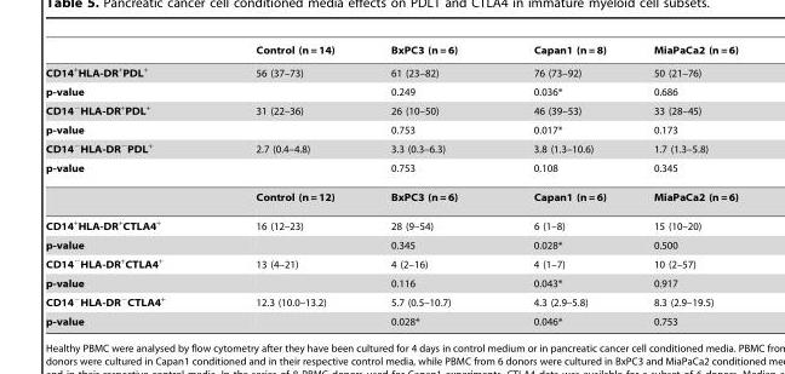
<table><thead><tr><td></td><td>Control (n = 14)</td><td>BxPC3 (n = 6)</td><td>Capan1 (n = 8)</td><td>MiaPaCa2 (n = 6)</td></tr></thead><tbody><tr><td>CD14<sup>+</sup>HLA-DR<sup>+</sup>PDL<sup>+</sup></td><td>56 (37–73)</td><td>61 (23–82)</td><td>76 (73–92)</td><td>50 (21–76)</td></tr><tr><td>p-value</td><td></td><td>0.249</td><td>0.036*</td><td>0.686</td></tr><tr><td>CD14<sup>−</sup>HLA-DR<sup>+</sup>PDL<sup>+</sup></td><td>31 (22–36)</td><td>26 (10–50)</td><td>46 (39–53)</td><td>33 (28–45)</td></tr><tr><td>p-value</td><td></td><td>0.753</td><td>0.017*</td><td>0.173</td></tr><tr><td>CD14<sup>−</sup>HLA-DR<sup>−</sup>PDL<sup>+</sup></td><td>2.7 (0.4–4.8)</td><td>3.3 (0.3–6.3)</td><td>3.8 (1.3–10.6)</td><td>1.7 (1.3–5.8)</td></tr><tr><td rowspan="2">p-value</td><td></td><td>0.753</td><td>0.108</td><td>0.345</td></tr><tr><td>Control (n = 12)</td><td>BxPC3 (n = 6)</td><td>Capan1 (n = 6)</td><td>MiaPaCa2 (n = 6)</td></tr><tr><td>CD14<sup>+</sup>HLA-DR<sup>+</sup>CTLA4<sup>+</sup></td><td>16 (12–23)</td><td>28 (9–54)</td><td>6 (1–8)</td><td>15 (10–20)</td></tr><tr><td>p-value</td><td></td><td>0.345</td><td>0.028*</td><td>0.500</td></tr><tr><td>CD14<sup>−</sup>HLA-DR<sup>+</sup>CTLA4<sup>+</sup></td><td>13 (4–21)</td><td>4 (2–16)</td><td>4 (1–7)</td><td>10 (2–57)</td></tr><tr><td>p-value</td><td></td><td>0.116</td><td>0.043*</td><td>0.917</td></tr><tr><td>CD14<sup>−</sup>HLA-DR<sup>−</sup>CTLA4<sup>+</sup></td><td>12.3 (10.0–13.2)</td><td>5.7 (0.5–10.7)</td><td>4.3 (2.9–5.8)</td><td>8.3 (2.9–19.5)</td></tr><tr><td>p-value</td><td></td><td>0.028*</td><td>0.046*</td><td>0.753</td></tr></tbody></table>